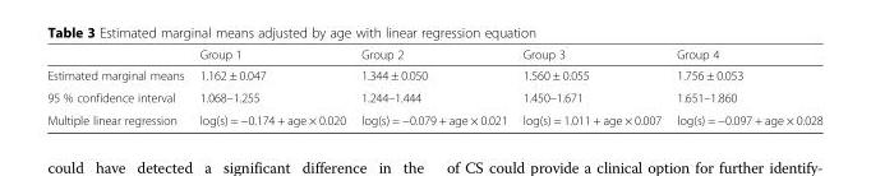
<table><thead><tr><td></td><td>Group 1</td><td>Group 2</td><td>Group 3</td><td>Group 4</td></tr></thead><tbody><tr><td>Estimated marginal means</td><td>1.162 ± 0.047</td><td>1.344 ± 0.050</td><td>1.560 ± 0.055</td><td>1.756 ± 0.053</td></tr><tr><td>95 % confidence interval</td><td>1.068–1.255</td><td>1.244–1.444</td><td>1.450–1.671</td><td>1.651–1.860</td></tr><tr><td>Multiple linear regression</td><td>log(s) = −0.174 + age × 0.020</td><td>log(s) = −0.079 + age × 0.021</td><td>log(s) = 1.011 + age × 0.007</td><td>log(s) = −0.097 + age × 0.028</td></tr></tbody></table>